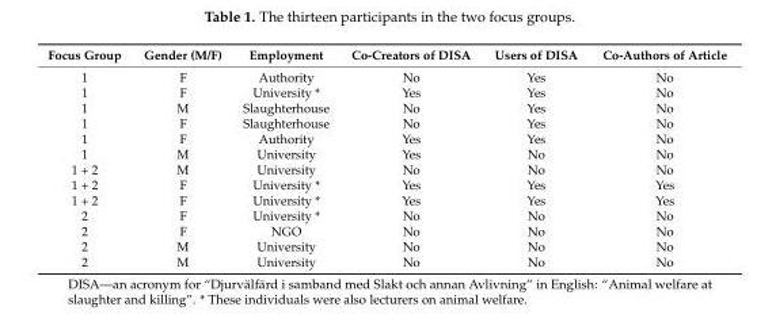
<table><thead><tr><td>Focus Group</td><td>Gender (M/F)</td><td>Employment</td><td>Co-Creators of DISA</td><td>Users of DISA</td><td>Co-Authors of Article</td></tr></thead><tbody><tr><td>1</td><td>F</td><td>Authority</td><td>No</td><td>Yes</td><td>No</td></tr><tr><td>1</td><td>F</td><td>University *</td><td>Yes</td><td>Yes</td><td>No</td></tr><tr><td>1</td><td>M</td><td>Slaughterhouse</td><td>No</td><td>Yes</td><td>No</td></tr><tr><td>1</td><td>F</td><td>Slaughterhouse</td><td>No</td><td>Yes</td><td>No</td></tr><tr><td>1</td><td>F</td><td>Authority</td><td>Yes</td><td>Yes</td><td>No</td></tr><tr><td>1</td><td>M</td><td>University</td><td>Yes</td><td>No</td><td>No</td></tr><tr><td>1 + 2</td><td>M</td><td>University</td><td>No</td><td>No</td><td>No</td></tr><tr><td>1 + 2</td><td>F</td><td>University *</td><td>Yes</td><td>Yes</td><td>Yes</td></tr><tr><td>1 + 2</td><td>F</td><td>University *</td><td>Yes</td><td>Yes</td><td>Yes</td></tr><tr><td>2</td><td>F</td><td>University *</td><td>No</td><td>No</td><td>No</td></tr><tr><td>2</td><td>F</td><td>NGO</td><td>No</td><td>No</td><td>No</td></tr><tr><td>2</td><td>M</td><td>University</td><td>No</td><td>No</td><td>No</td></tr><tr><td>2</td><td>M</td><td>University</td><td>No</td><td>No</td><td>No</td></tr></tbody></table>